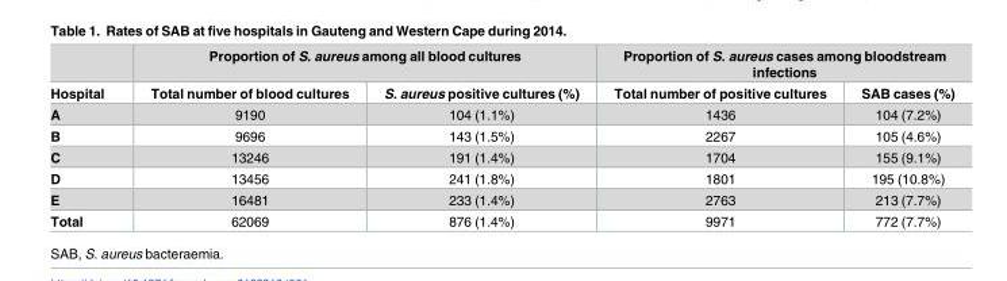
<table><thead><tr><td rowspan="2">Hospital</td><td colspan="2">Proportion of S. aureus among all blood cultures</td><td colspan="2">Proportion of S. aureus cases among bloodstream infections</td></tr><tr><td>Total number of blood cultures</td><td>S. aureus positive cultures (%)</td><td>Total number of positive cultures</td><td>SAB cases (%)</td></tr></thead><tbody><tr><td>A</td><td>9190</td><td>104 (1.1%)</td><td>1436</td><td>104 (7.2%)</td></tr><tr><td>B</td><td>9696</td><td>143 (1.5%)</td><td>2267</td><td>105 (4.6%)</td></tr><tr><td>C</td><td>13246</td><td>191 (1.4%)</td><td>1704</td><td>155 (9.1%)</td></tr><tr><td>D</td><td>13456</td><td>241 (1.8%)</td><td>1801</td><td>195 (10.8%)</td></tr><tr><td>E</td><td>16481</td><td>233 (1.4%)</td><td>2763</td><td>213 (7.7%)</td></tr><tr><td>Total</td><td>62069</td><td>876 (1.4%)</td><td>9971</td><td>772 (7.7%)</td></tr></tbody></table>